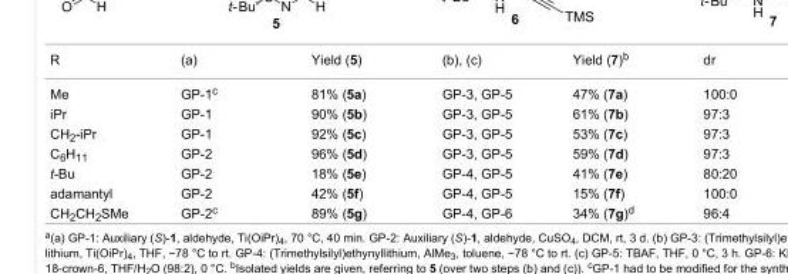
<table><tbody><tr><td>R</td><td>(a)</td><td>Yield (5)</td><td>(b), (c)</td><td>Yield (7)<sup>b</sup></td><td>dr</td></tr><tr><td>Me</td><td>GP-1<sup>c</sup></td><td>81% (5a)</td><td>GP-3, GP-5</td><td>47% (7a)</td><td>100:0</td></tr><tr><td>iPr</td><td>GP-1</td><td>90% (5b)</td><td>GP-3, GP-5</td><td>61% (7b)</td><td>97:3</td></tr><tr><td>CH<sub>2</sub>-iPr</td><td>GP-1</td><td>92% (5c)</td><td>GP-3, GP-5</td><td>53% (7c)</td><td>97:3</td></tr><tr><td>C<sub>6</sub>H<sub>11</sub></td><td>GP-2</td><td>96% (5d)</td><td>GP-3, GP-5</td><td>59% (7d)</td><td>97:3</td></tr><tr><td>t-Bu</td><td>GP-2</td><td>18% (5e)</td><td>GP-4, GP-5</td><td>41% (7e)</td><td>80:20</td></tr><tr><td>adamantyl</td><td>GP-2</td><td>42% (5f)</td><td>GP-4, GP-5</td><td>15% (7f)</td><td>100:0</td></tr><tr><td>CH<sub>2</sub>CH<sub>2</sub>SMe</td><td>GP-2<sup>c</sup></td><td>89% (5g)</td><td>GP-4, GP-6</td><td>34% (7g)<sup>d</sup></td><td>96:4</td></tr></tbody></table>